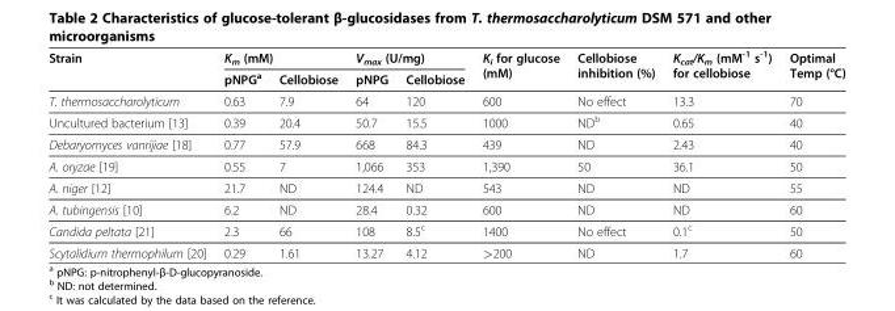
<table><thead><tr><td rowspan="2">Strain</td><td colspan="2">K<sub>m</sub> (mM)</td><td colspan="2">V<sub>max</sub> (U/mg)</td><td rowspan="2">K<sub>i</sub> for glucose (mM)</td><td rowspan="2">Cellobiose inhibition (%)</td><td rowspan="2">K<sub>cat</sub>/K<sub>m</sub> (mM<sup>-1</sup> s<sup>-1</sup>) for cellobiose</td><td rowspan="2">Optimal Temp (°C)</td></tr><tr><td>pNPG<sup>a</sup></td><td>Cellobiose</td><td>pNPG</td><td>Cellobiose</td></tr></thead><tbody><tr><td>T. thermosaccharolyticum</td><td>0.63</td><td>7.9</td><td>64</td><td>120</td><td>600</td><td>No effect</td><td>13.3</td><td>70</td></tr><tr><td>Uncultured bacterium [13]</td><td>0.39</td><td>20.4</td><td>50.7</td><td>15.5</td><td>1000</td><td>ND<sup>b</sup></td><td>0.65</td><td>40</td></tr><tr><td>Debaryomyces vanrijiae [18]</td><td>0.77</td><td>57.9</td><td>668</td><td>84.3</td><td>439</td><td>ND</td><td>2.43</td><td>40</td></tr><tr><td>A. oryzae [19]</td><td>0.55</td><td>7</td><td>1,066</td><td>353</td><td>1,390</td><td>50</td><td>36.1</td><td>50</td></tr><tr><td>A. niger [12]</td><td>21.7</td><td>ND</td><td>124.4</td><td>ND</td><td>543</td><td>ND</td><td>ND</td><td>55</td></tr><tr><td>A. tubingensis [10]</td><td>6.2</td><td>ND</td><td>28.4</td><td>0.32</td><td>600</td><td>ND</td><td>ND</td><td>60</td></tr><tr><td>Candida peltata [21]</td><td>2.3</td><td>66</td><td>108</td><td>8.5<sup>c</sup></td><td>1400</td><td>No effect</td><td>0.1<sup>c</sup></td><td>50</td></tr><tr><td>Scytalidium thermophilum [20]</td><td>0.29</td><td>1.61</td><td>13.27</td><td>4.12</td><td>&gt;200</td><td>ND</td><td>1.7</td><td>60</td></tr></tbody></table>